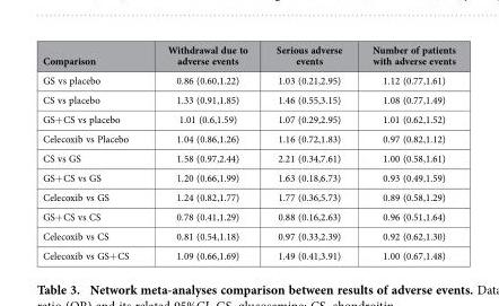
<table><thead><tr><td>Comparison</td><td>Withdrawal due to adverse events</td><td>Serious adverse events</td><td>Number of patients with adverse events</td></tr></thead><tbody><tr><td>GS vs placebo</td><td>0.86 (0.60,1.22)</td><td>1.03 (0.21,2.95)</td><td>1.12 (0.77,1.61)</td></tr><tr><td>CS vs placebo</td><td>1.33 (0.91,1.85)</td><td>1.46 (0.55,3.15)</td><td>1.08 (0.77,1.49)</td></tr><tr><td>GS+ CS vs placebo</td><td>1.01 (0.6,1.59)</td><td>1.07 (0.29,2.95)</td><td>1.01 (0.62,1.52)</td></tr><tr><td>Celecoxib vs Placebo</td><td>1.04 (0.86,1.26)</td><td>1.16 (0.72,1.83)</td><td>0.97 (0.82,1.12)</td></tr><tr><td>CS vs GS</td><td>1.58 (0.97,2.44)</td><td>2.21 (0.34,7.61)</td><td>1.00 (0.58,1.61)</td></tr><tr><td>GS+ CS vs GS</td><td>1.20 (0.66,1.99)</td><td>1.63 (0.18,6.73)</td><td>0.93 (0.49,1.59)</td></tr><tr><td>Celecoxib vs GS</td><td>1.24 (0.82,1.77)</td><td>1.77 (0.36,5.73)</td><td>0.89 (0.58,1.29)</td></tr><tr><td>GS+ CS vs CS</td><td>0.78 (0.41,1.29)</td><td>0.88 (0.16,2.63)</td><td>0.96 (0.51,1.64)</td></tr><tr><td>Celecoxib vs CS</td><td>0.81 (0.54,1.18)</td><td>0.97 (0.33,2.39)</td><td>0.92 (0.62,1.30)</td></tr><tr><td>Celecoxib vs GS+ CS</td><td>1.09 (0.66,1.69)</td><td>1.49 (0.41,3.91)</td><td>1.00 (0.67,1.48)</td></tr></tbody></table>